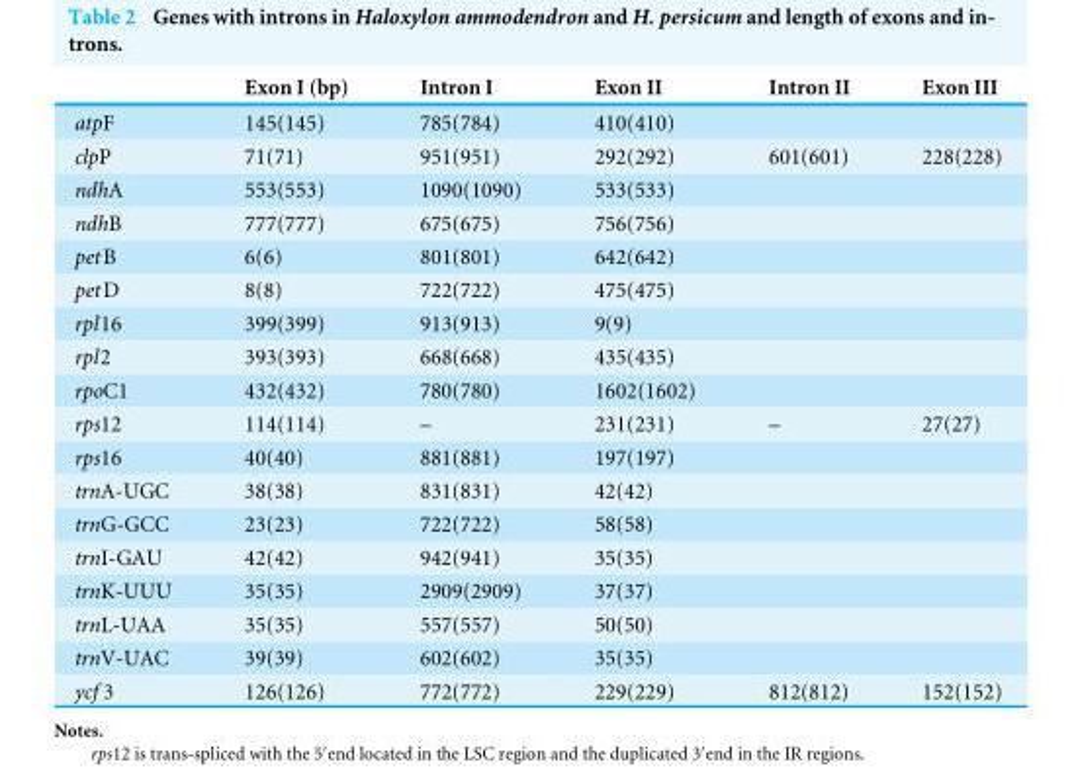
<table><thead><tr><td></td><td>Exon I (bp)</td><td>Intron I</td><td>Exon II</td><td>Intron II</td><td>Exon III</td></tr></thead><tbody><tr><td>atpF</td><td>145(145)</td><td>785(784)</td><td>410(410)</td><td></td><td></td></tr><tr><td>clpP</td><td>71(71)</td><td>951(951)</td><td>292(292)</td><td>601(601)</td><td>228(228)</td></tr><tr><td>ndhA</td><td>553(553)</td><td>1090(1090)</td><td>533(533)</td><td></td><td></td></tr><tr><td>ndhB</td><td>777(777)</td><td>675(675)</td><td>756(756)</td><td></td><td></td></tr><tr><td>petB</td><td>6(6)</td><td>801(801)</td><td>642(642)</td><td></td><td></td></tr><tr><td>petD</td><td>8(8)</td><td>722(722)</td><td>475(475)</td><td></td><td></td></tr><tr><td>rpl16</td><td>399(399)</td><td>913(913)</td><td>9(9)</td><td></td><td></td></tr><tr><td>rpl2</td><td>393(393)</td><td>668(668)</td><td>435(435)</td><td></td><td></td></tr><tr><td>rpoC1</td><td>432(432)</td><td>780(780)</td><td>1602(1602)</td><td></td><td></td></tr><tr><td>rps12</td><td>114(114)</td><td>–</td><td>231(231)</td><td>–</td><td>27(27)</td></tr><tr><td>rps16</td><td>40(40)</td><td>881(881)</td><td>197(197)</td><td></td><td></td></tr><tr><td>trnA-UGC</td><td>38(38)</td><td>831(831)</td><td>42(42)</td><td></td><td></td></tr><tr><td>trnG-GCC</td><td>23(23)</td><td>722(722)</td><td>58(58)</td><td></td><td></td></tr><tr><td>trnI-GAU</td><td>42(42)</td><td>942(941)</td><td>35(35)</td><td></td><td></td></tr><tr><td>trnK-UUU</td><td>35(35)</td><td>2909(2909)</td><td>37(37)</td><td></td><td></td></tr><tr><td>trnL-UAA</td><td>35(35)</td><td>557(557)</td><td>50(50)</td><td></td><td></td></tr><tr><td>trnV-UAC</td><td>39(39)</td><td>602(602)</td><td>35(35)</td><td></td><td></td></tr><tr><td>ycf 3</td><td>126(126)</td><td>772(772)</td><td>229(229)</td><td>812(812)</td><td>152(152)</td></tr></tbody></table>